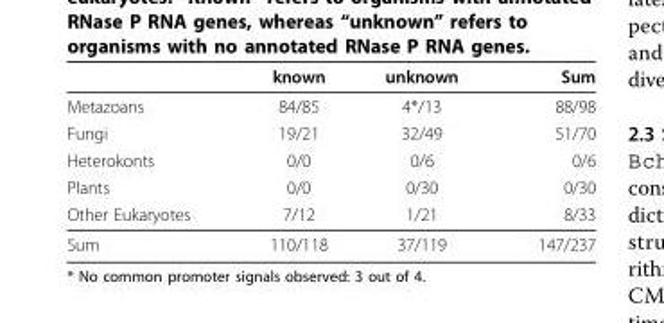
<table><thead><tr><td></td><td>known</td><td>unknown</td><td>Sum</td></tr></thead><tbody><tr><td>Metazoans</td><td>84/85</td><td>4*/13</td><td>88/98</td></tr><tr><td>Fungi</td><td>19/21</td><td>32/49</td><td>51/70</td></tr><tr><td>Heterokonts</td><td>0/0</td><td>0/6</td><td>0/6</td></tr><tr><td>Plants</td><td>0/0</td><td>0/30</td><td>0/30</td></tr><tr><td>Other Eukaryotes</td><td>7/12</td><td>1/21</td><td>8/33</td></tr><tr><td>Sum</td><td>110/118</td><td>37/119</td><td>147/237</td></tr></tbody></table>